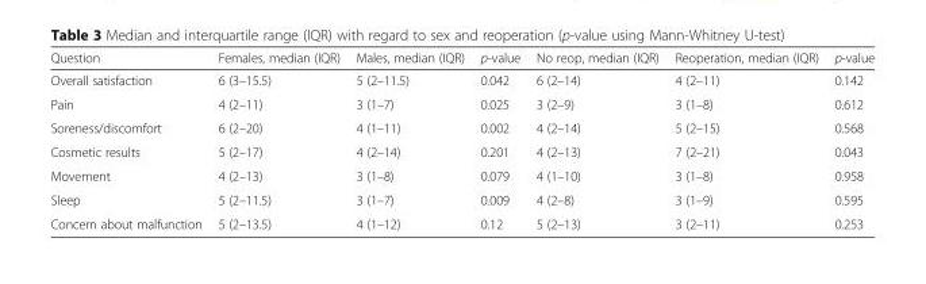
<table><thead><tr><td>Question</td><td>Females, median (IQR)</td><td>Males, median (IQR)</td><td>p-value</td><td>No reop, median (IQR)</td><td>Reoperation, median (IQR)</td><td>p-value</td></tr></thead><tbody><tr><td>Overall satisfaction</td><td>6 (3–15.5)</td><td>5 (2–11.5)</td><td>0.042</td><td>6 (2–14)</td><td>4 (2–11)</td><td>0.142</td></tr><tr><td>Pain</td><td>4 (2–11)</td><td>3 (1–7)</td><td>0.025</td><td>3 (2–9)</td><td>3 (1–8)</td><td>0.612</td></tr><tr><td>Soreness/discomfort</td><td>6 (2–20)</td><td>4 (1–11)</td><td>0.002</td><td>4 (2–14)</td><td>5 (2–15)</td><td>0.568</td></tr><tr><td>Cosmetic results</td><td>5 (2–17)</td><td>4 (2–14)</td><td>0.201</td><td>4 (2–13)</td><td>7 (2–21)</td><td>0.043</td></tr><tr><td>Movement</td><td>4 (2–13)</td><td>3 (1–8)</td><td>0.079</td><td>4 (1–10)</td><td>3 (1–8)</td><td>0.958</td></tr><tr><td>Sleep</td><td>5 (2–11.5)</td><td>3 (1–7)</td><td>0.009</td><td>4 (2–8)</td><td>3 (1–9)</td><td>0.595</td></tr><tr><td>Concern about malfunction</td><td>5 (2–13.5)</td><td>4 (1–12)</td><td>0.12</td><td>5 (2–13)</td><td>3 (2–11)</td><td>0.253</td></tr></tbody></table>